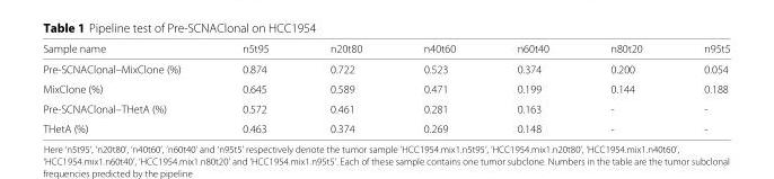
<table><thead><tr><td>Sample name</td><td>n5t95</td><td>n20t80</td><td>n40t60</td><td>n60t40</td><td>n80t20</td><td>n95t5</td></tr></thead><tbody><tr><td>Pre-SCNAClonal–MixClone (%)</td><td>0.874</td><td>0.722</td><td>0.523</td><td>0.374</td><td>0.200</td><td>0.054</td></tr><tr><td>MixClone (%)</td><td>0.645</td><td>0.589</td><td>0.471</td><td>0.199</td><td>0.144</td><td>0.188</td></tr><tr><td>Pre-SCNAClonal–THetA (%)</td><td>0.572</td><td>0.461</td><td>0.281</td><td>0.163</td><td>-</td><td>-</td></tr><tr><td>THetA (%)</td><td>0.463</td><td>0.374</td><td>0.269</td><td>0.148</td><td>-</td><td>-</td></tr></tbody></table>